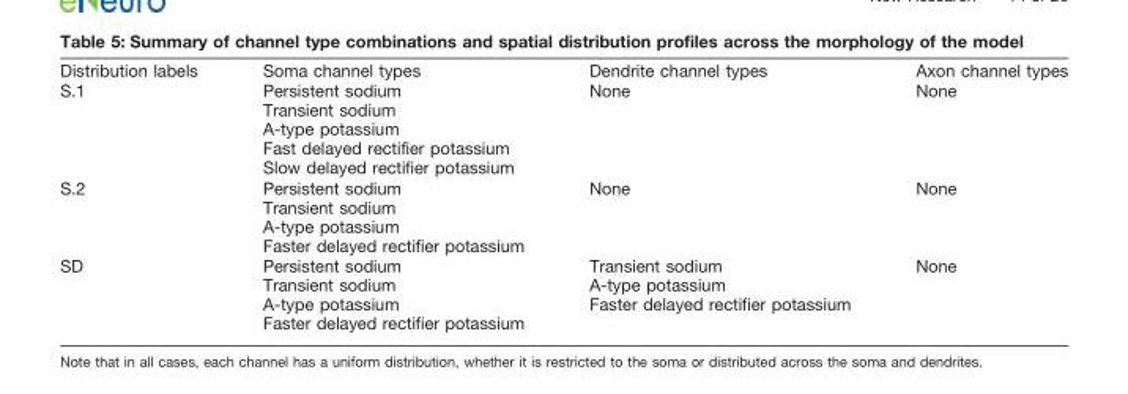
<table><thead><tr><td>Distribution labels</td><td>Soma channel types</td><td>Dendrite channel types</td><td>Axon channel types</td></tr></thead><tbody><tr><td>S.1</td><td>Persistent sodium Transient sodium A-type potassium Fast delayed rectifier potassium Slow delayed rectifier potassium</td><td>None</td><td>None</td></tr><tr><td>S.2</td><td>Persistent sodium Transient sodium A-type potassium Faster delayed rectifier potassium</td><td>None</td><td>None</td></tr><tr><td>SD</td><td>Persistent sodium Transient sodium A-type potassium Faster delayed rectifier potassium</td><td>Transient sodium A-type potassium Faster delayed rectifier potassium</td><td>None</td></tr></tbody></table>